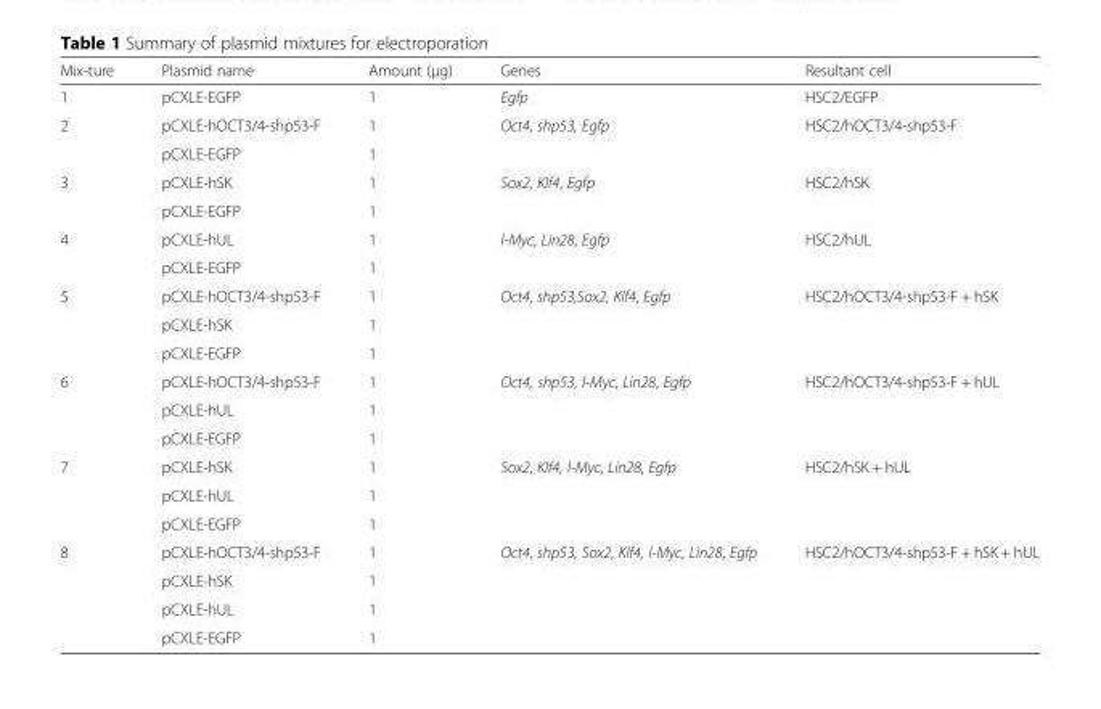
<table><thead><tr><td>Mix-ture</td><td>Plasmid name</td><td>Amount (μg)</td><td>Genes</td><td>Resultant cell</td></tr></thead><tbody><tr><td>1</td><td>pCXLE-EGFP</td><td>1</td><td>Egfp</td><td>HSC2/EGFP</td></tr><tr><td rowspan="2">2</td><td>pCXLE-hOCT3/4-shp53-F</td><td>1</td><td rowspan="2">Oct4, shp53, Egfp</td><td rowspan="2">HSC2/hOCT3/4-shp53-F</td></tr><tr><td>pCXLE-EGFP</td><td>1</td></tr><tr><td rowspan="2">3</td><td>pCXLE-hSK</td><td>1</td><td rowspan="2">Sox2, Klf4, Egfp</td><td rowspan="2">HSC2/hSK</td></tr><tr><td>pCXLE-EGFP</td><td>1</td></tr><tr><td rowspan="2">4</td><td>pCXLE-hUL</td><td>1</td><td rowspan="2">l-Myc, Lin28, Egfp</td><td rowspan="2">HSC2/hUL</td></tr><tr><td>pCXLE-EGFP</td><td>1</td></tr><tr><td rowspan="3">5</td><td>pCXLE-hOCT3/4-shp53-F</td><td>1</td><td rowspan="3">Oct4, shp53,Sox2, Klf4, Egfp</td><td rowspan="3">HSC2/hOCT3/4-shp53-F + hSK</td></tr><tr><td>pCXLE-hSK</td><td>1</td></tr><tr><td>pCXLE-EGFP</td><td>1</td></tr><tr><td rowspan="3">6</td><td>pCXLE-hOCT3/4-shp53-F</td><td>1</td><td rowspan="3">Oct4, shp53, l-Myc, Lin28, Egfp</td><td rowspan="3">HSC2/hOCT3/4-shp53-F + hUL</td></tr><tr><td>pCXLE-hUL</td><td>1</td></tr><tr><td>pCXLE-EGFP</td><td>1</td></tr><tr><td rowspan="3">7</td><td>pCXLE-hSK</td><td>1</td><td rowspan="3">Sox2, Klf4, l-Myc, Lin28, Egfp</td><td rowspan="3">HSC2/hSK + hUL</td></tr><tr><td>pCXLE-hUL</td><td>1</td></tr><tr><td>pCXLE-EGFP</td><td>1</td></tr><tr><td rowspan="4">8</td><td>pCXLE-hOCT3/4-shp53-F</td><td>1</td><td rowspan="4">Oct4, shp53, Sox2, Klf4, l-Myc, Lin28, Egfp</td><td rowspan="4">HSC2/hOCT3/4-shp53-F + hSK + hUL</td></tr><tr><td>pCXLE-hSK</td><td>1</td></tr><tr><td>pCXLE-hUL</td><td>1</td></tr><tr><td>pCXLE-EGFP</td><td>1</td></tr></tbody></table>